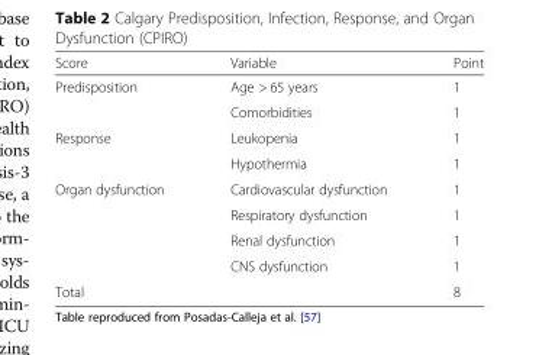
<table><thead><tr><td>Score</td><td>Variable</td><td>Point</td></tr></thead><tbody><tr><td rowspan="2">Predisposition</td><td>Age &gt; 65 years</td><td>1</td></tr><tr><td>Comorbidities</td><td>1</td></tr><tr><td rowspan="2">Response</td><td>Leukopenia</td><td>1</td></tr><tr><td>Hypothermia</td><td>1</td></tr><tr><td rowspan="4">Organ dysfunction</td><td>Cardiovascular dysfunction</td><td>1</td></tr><tr><td>Respiratory dysfunction</td><td>1</td></tr><tr><td>Renal dysfunction</td><td>1</td></tr><tr><td>CNS dysfunction</td><td>1</td></tr><tr><td>Total</td><td></td><td>8</td></tr></tbody></table>